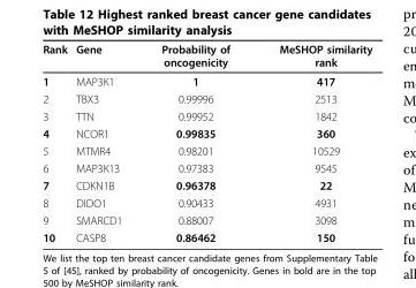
<table><thead><tr><td>Rank</td><td>Gene</td><td>Probability of oncogenicity</td><td>MeSHOP similarity rank</td></tr></thead><tbody><tr><td>1</td><td>MAP3K1</td><td>1</td><td>417</td></tr><tr><td>2</td><td>TBX3</td><td>0.99996</td><td>2513</td></tr><tr><td>3</td><td>TTN</td><td>0.99952</td><td>1842</td></tr><tr><td>4</td><td>NCOR1</td><td>0.99835</td><td>360</td></tr><tr><td>5</td><td>MTMR4</td><td>0.98201</td><td>10529</td></tr><tr><td>6</td><td>MAP3K13</td><td>0.97383</td><td>9545</td></tr><tr><td>7</td><td>CDKN1B</td><td>0.96378</td><td>22</td></tr><tr><td>8</td><td>DIDO1</td><td>0.90433</td><td>4931</td></tr><tr><td>9</td><td>SMARCD1</td><td>0.88007</td><td>3098</td></tr><tr><td>10</td><td>CASP8</td><td>0.86462</td><td>150</td></tr></tbody></table>